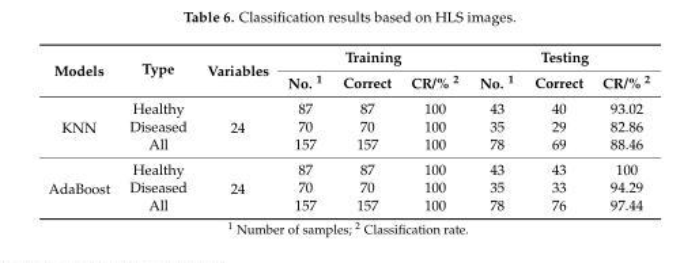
<table><thead><tr><td rowspan="2">Models</td><td rowspan="2">Type</td><td rowspan="2">Variables</td><td colspan="3">Training</td><td colspan="3">Testing</td></tr><tr><td>No. <sup>1</sup></td><td>Correct</td><td>CR/% <sup>2</sup></td><td>No. <sup>1</sup></td><td>Correct</td><td>CR/% <sup>2</sup></td></tr></thead><tbody><tr><td rowspan="3">KNN</td><td>Healthy</td><td rowspan="3">24</td><td>87</td><td>87</td><td>100</td><td>43</td><td>40</td><td>93.02</td></tr><tr><td>Diseased</td><td>70</td><td>70</td><td>100</td><td>35</td><td>29</td><td>82.86</td></tr><tr><td>All</td><td>157</td><td>157</td><td>100</td><td>78</td><td>69</td><td>88.46</td></tr><tr><td rowspan="3">AdaBoost</td><td>Healthy</td><td rowspan="3">24</td><td>87</td><td>87</td><td>100</td><td>43</td><td>43</td><td>100</td></tr><tr><td>Diseased</td><td>70</td><td>70</td><td>100</td><td>35</td><td>33</td><td>94.29</td></tr><tr><td>All</td><td>157</td><td>157</td><td>100</td><td>78</td><td>76</td><td>97.44</td></tr></tbody></table>